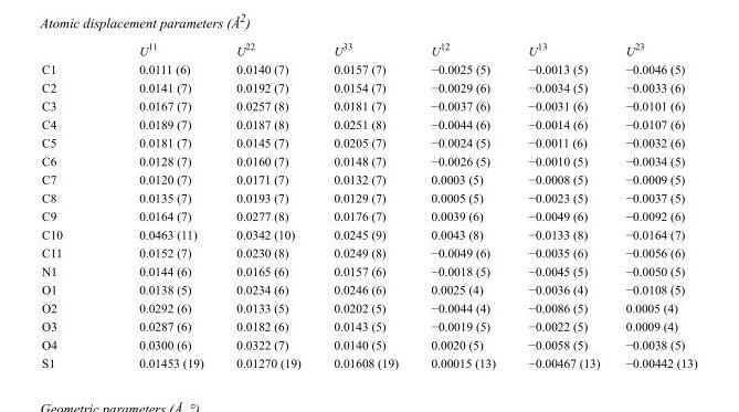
<table><thead><tr><td></td><td>U<sup>11</sup></td><td>U<sup>22</sup></td><td>U<sup>33</sup></td><td>U<sup>12</sup></td><td>U<sup>13</sup></td><td>U<sup>23</sup></td></tr></thead><tbody><tr><td>C1</td><td>0.0111 (6)</td><td>0.0140 (7)</td><td>0.0157 (7)</td><td>−0.0025 (5)</td><td>−0.0013 (5)</td><td>−0.0046 (5)</td></tr><tr><td>C2</td><td>0.0141 (7)</td><td>0.0192 (7)</td><td>0.0154 (7)</td><td>−0.0029 (6)</td><td>−0.0034 (5)</td><td>−0.0033 (6)</td></tr><tr><td>C3</td><td>0.0167 (7)</td><td>0.0257 (8)</td><td>0.0181 (7)</td><td>−0.0037 (6)</td><td>−0.0031 (6)</td><td>−0.0101 (6)</td></tr><tr><td>C4</td><td>0.0189 (7)</td><td>0.0187 (8)</td><td>0.0251 (8)</td><td>−0.0044 (6)</td><td>−0.0014 (6)</td><td>−0.0107 (6)</td></tr><tr><td>C5</td><td>0.0181 (7)</td><td>0.0145 (7)</td><td>0.0205 (7)</td><td>−0.0024 (5)</td><td>−0.0011 (6)</td><td>−0.0032 (6)</td></tr><tr><td>C6</td><td>0.0128 (7)</td><td>0.0160 (7)</td><td>0.0148 (7)</td><td>−0.0026 (5)</td><td>−0.0010 (5)</td><td>−0.0034 (5)</td></tr><tr><td>C7</td><td>0.0120 (7)</td><td>0.0171 (7)</td><td>0.0132 (7)</td><td>0.0003 (5)</td><td>−0.0008 (5)</td><td>−0.0009 (5)</td></tr><tr><td>C8</td><td>0.0135 (7)</td><td>0.0193 (7)</td><td>0.0129 (7)</td><td>0.0005 (5)</td><td>−0.0023 (5)</td><td>−0.0037 (5)</td></tr><tr><td>C9</td><td>0.0164 (7)</td><td>0.0277 (8)</td><td>0.0176 (7)</td><td>0.0039 (6)</td><td>−0.0049 (6)</td><td>−0.0092 (6)</td></tr><tr><td>C10</td><td>0.0463 (11)</td><td>0.0342 (10)</td><td>0.0245 (9)</td><td>0.0043 (8)</td><td>−0.0133 (8)</td><td>−0.0164 (7)</td></tr><tr><td>C11</td><td>0.0152 (7)</td><td>0.0230 (8)</td><td>0.0249 (8)</td><td>−0.0049 (6)</td><td>−0.0035 (6)</td><td>−0.0056 (6)</td></tr><tr><td>N1</td><td>0.0144 (6)</td><td>0.0165 (6)</td><td>0.0157 (6)</td><td>−0.0018 (5)</td><td>−0.0045 (5)</td><td>−0.0050 (5)</td></tr><tr><td>O1</td><td>0.0138 (5)</td><td>0.0234 (6)</td><td>0.0246 (6)</td><td>0.0025 (4)</td><td>−0.0036 (4)</td><td>−0.0108 (5)</td></tr><tr><td>O2</td><td>0.0292 (6)</td><td>0.0133 (5)</td><td>0.0202 (5)</td><td>−0.0044 (4)</td><td>−0.0086 (5)</td><td>0.0005 (4)</td></tr><tr><td>O3</td><td>0.0287 (6)</td><td>0.0182 (6)</td><td>0.0143 (5)</td><td>−0.0019 (5)</td><td>−0.0022 (5)</td><td>0.0009 (4)</td></tr><tr><td>O4</td><td>0.0300 (6)</td><td>0.0322 (7)</td><td>0.0140 (5)</td><td>0.0020 (5)</td><td>−0.0058 (5)</td><td>−0.0038 (5)</td></tr><tr><td>S1</td><td>0.01453 (19)</td><td>0.01270 (19)</td><td>0.01608 (19)</td><td>0.00015 (13)</td><td>−0.00467 (13)</td><td>−0.00442 (13)</td></tr></tbody></table>